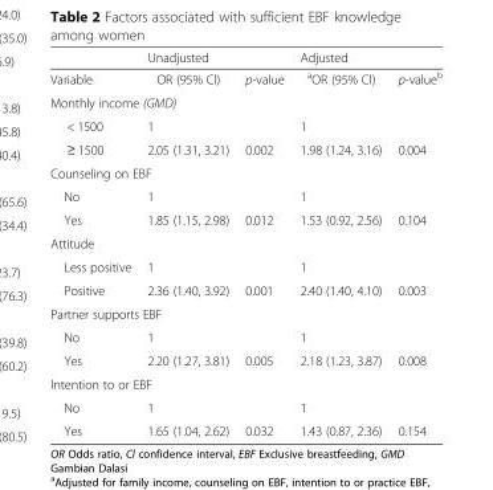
<table><thead><tr><td rowspan="2">Variable</td><td colspan="2">Unadjusted</td><td colspan="2">Adjusted</td></tr><tr><td>OR (95% Cl)</td><td>p-value</td><td><sup>a</sup>OR (95% Cl)</td><td>p-value<sup>b</sup></td></tr></thead><tbody><tr><td colspan="5">Monthly income (GMD)</td></tr><tr><td>&lt; 1500</td><td>1</td><td></td><td>1</td><td></td></tr><tr><td>≥ 1500</td><td>2.05 (1.31, 3.21)</td><td>0.002</td><td>1.98 (1.24, 3.16)</td><td>0.004</td></tr><tr><td colspan="5">Counseling on EBF</td></tr><tr><td>No</td><td>1</td><td></td><td>1</td><td></td></tr><tr><td>Yes</td><td>1.85 (1.15, 2.98)</td><td>0.012</td><td>1.53 (0.92, 2.56)</td><td>0.104</td></tr><tr><td colspan="5">Attitude</td></tr><tr><td>Less positive</td><td>1</td><td></td><td>1</td><td></td></tr><tr><td>Positive</td><td>2.36 (1.40, 3.92)</td><td>0.001</td><td>2.40 (1.40, 4.10)</td><td>0.003</td></tr><tr><td colspan="5">Partner supports EBF</td></tr><tr><td>No</td><td>1</td><td></td><td>1</td><td></td></tr><tr><td>Yes</td><td>2.20 (1.27, 3.81)</td><td>0.005</td><td>2.18 (1.23, 3.87)</td><td>0.008</td></tr><tr><td colspan="5">Intention to or EBF</td></tr><tr><td>No</td><td>1</td><td></td><td>1</td><td></td></tr><tr><td>Yes</td><td>1.65 (1.04, 2.62)</td><td>0.032</td><td>1.43 (0.87, 2.36)</td><td>0.154</td></tr></tbody></table>